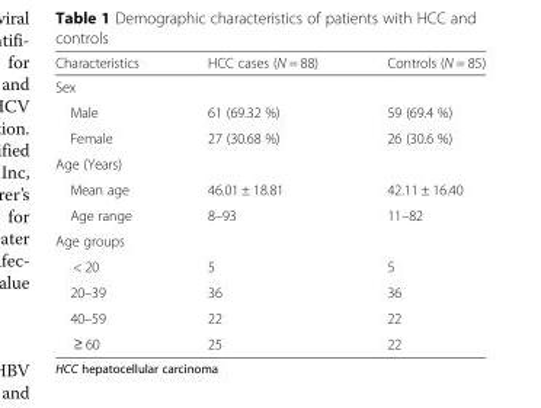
<table><thead><tr><td>Characteristics</td><td>HCC cases (N = 88)</td><td>Controls (N = 85)</td></tr></thead><tbody><tr><td colspan="3">Sex</td></tr><tr><td>Male</td><td>61 (69.32 %)</td><td>59 (69.4 %)</td></tr><tr><td>Female</td><td>27 (30.68 %)</td><td>26 (30.6 %)</td></tr><tr><td colspan="3">Age (Years)</td></tr><tr><td>Mean age</td><td>46.01 ± 18.81</td><td>42.11 ± 16.40</td></tr><tr><td>Age range</td><td>8–93</td><td>11–82</td></tr><tr><td colspan="3">Age groups</td></tr><tr><td>&lt; 20</td><td>5</td><td>5</td></tr><tr><td>20–39</td><td>36</td><td>36</td></tr><tr><td>40–59</td><td>22</td><td>22</td></tr><tr><td>≥ 60</td><td>25</td><td>22</td></tr></tbody></table>